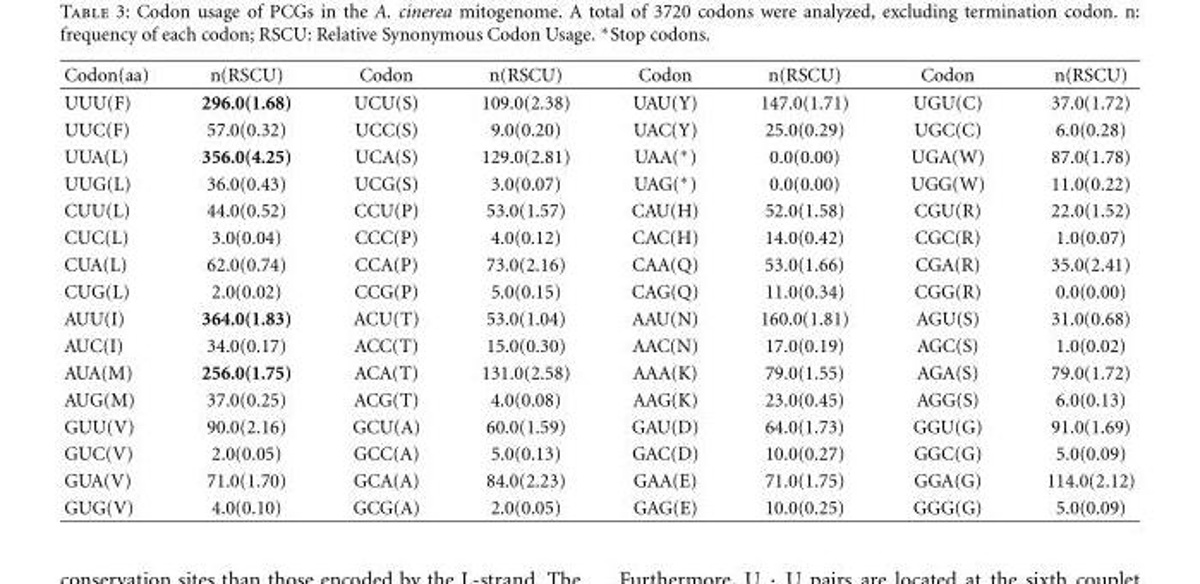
<table><thead><tr><td>Codon(aa)</td><td>n(RSCU)</td><td>Codon</td><td>n(RSCU)</td><td>Codon</td><td>n(RSCU)</td><td>Codon</td><td>n(RSCU)</td></tr></thead><tbody><tr><td>UUU(F)</td><td>296.0(1.68)</td><td>UCU(S)</td><td>109.0(2.38)</td><td>UAU(Y)</td><td>147.0(1.71)</td><td>UGU(C)</td><td>37.0(1.72)</td></tr><tr><td>UUC(F)</td><td>57.0(0.32)</td><td>UCC(S)</td><td>9.0(0.20)</td><td>UAC(Y)</td><td>25.0(0.29)</td><td>UGC(C)</td><td>6.0(0.28)</td></tr><tr><td>UUA(L)</td><td>356.0(4.25)</td><td>UCA(S)</td><td>129.0(2.81)</td><td>UAA(∗)</td><td>0.0(0.00)</td><td>UGA(W)</td><td>87.0(1.78)</td></tr><tr><td>UUG(L)</td><td>36.0(0.43)</td><td>UCG(S)</td><td>3.0(0.07)</td><td>UAG(∗)</td><td>0.0(0.00)</td><td>UGG(W)</td><td>11.0(0.22)</td></tr><tr><td>CUU(L)</td><td>44.0(0.52)</td><td>CCU(P)</td><td>53.0(1.57)</td><td>CAU(H)</td><td>52.0(1.58)</td><td>CGU(R)</td><td>22.0(1.52)</td></tr><tr><td>CUC(L)</td><td>3.0(0.04)</td><td>CCC(P)</td><td>4.0(0.12)</td><td>CAC(H)</td><td>14.0(0.42)</td><td>CGC(R)</td><td>1.0(0.07)</td></tr><tr><td>CUA(L)</td><td>62.0(0.74)</td><td>CCA(P)</td><td>73.0(2.16)</td><td>CAA(Q)</td><td>53.0(1.66)</td><td>CGA(R)</td><td>35.0(2.41)</td></tr><tr><td>CUG(L)</td><td>2.0(0.02)</td><td>CCG(P)</td><td>5.0(0.15)</td><td>CAG(Q)</td><td>11.0(0.34)</td><td>CGG(R)</td><td>0.0(0.00)</td></tr><tr><td>AUU(I)</td><td>364.0(1.83)</td><td>ACU(T)</td><td>53.0(1.04)</td><td>AAU(N)</td><td>160.0(1.81)</td><td>AGU(S)</td><td>31.0(0.68)</td></tr><tr><td>AUC(I)</td><td>34.0(0.17)</td><td>ACC(T)</td><td>15.0(0.30)</td><td>AAC(N)</td><td>17.0(0.19)</td><td>AGC(S)</td><td>1.0(0.02)</td></tr><tr><td>AUA(M)</td><td>256.0(1.75)</td><td>ACA(T)</td><td>131.0(2.58)</td><td>AAA(K)</td><td>79.0(1.55)</td><td>AGA(S)</td><td>79.0(1.72)</td></tr><tr><td>AUG(M)</td><td>37.0(0.25)</td><td>ACG(T)</td><td>4.0(0.08)</td><td>AAG(K)</td><td>23.0(0.45)</td><td>AGG(S)</td><td>6.0(0.13)</td></tr><tr><td>GUU(V)</td><td>90.0(2.16)</td><td>GCU(A)</td><td>60.0(1.59)</td><td>GAU(D)</td><td>64.0(1.73)</td><td>GGU(G)</td><td>91.0(1.69)</td></tr><tr><td>GUC(V)</td><td>2.0(0.05)</td><td>GCC(A)</td><td>5.0(0.13)</td><td>GAC(D)</td><td>10.0(0.27)</td><td>GGC(G)</td><td>5.0(0.09)</td></tr><tr><td>GUA(V)</td><td>71.0(1.70)</td><td>GCA(A)</td><td>84.0(2.23)</td><td>GAA(E)</td><td>71.0(1.75)</td><td>GGA(G)</td><td>114.0(2.12)</td></tr><tr><td>GUG(V)</td><td>4.0(0.10)</td><td>GCG(A)</td><td>2.0(0.05)</td><td>GAG(E)</td><td>10.0(0.25)</td><td>GGG(G)</td><td>5.0(0.09)</td></tr></tbody></table>